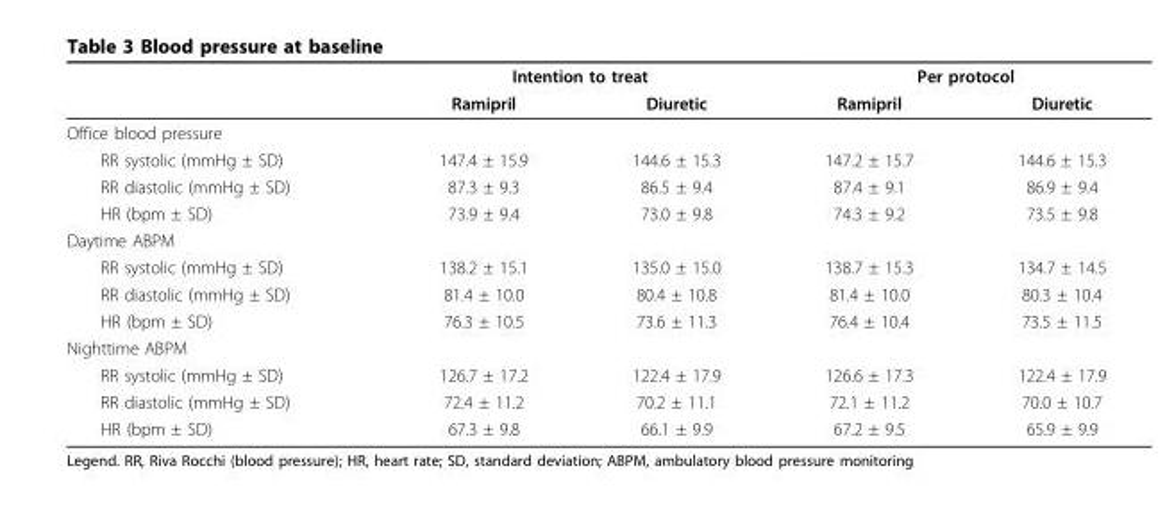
<table><thead><tr><td rowspan="2"></td><td colspan="2">Intention to treat</td><td colspan="2">Per protocol</td></tr><tr><td>Ramipril</td><td>Diuretic</td><td>Ramipril</td><td>Diuretic</td></tr></thead><tbody><tr><td colspan="5">Office blood pressure</td></tr><tr><td>RR systolic (mmHg ± SD)</td><td>147.4 ± 15.9</td><td>144.6 ± 15.3</td><td>147.2 ± 15.7</td><td>144.6 ± 15.3</td></tr><tr><td>RR diastolic (mmHg ± SD)</td><td>87.3 ± 9.3</td><td>86.5 ± 9.4</td><td>87.4 ± 9.1</td><td>86.9 ± 9.4</td></tr><tr><td>HR (bpm ± SD)</td><td>73.9 ± 9.4</td><td>73.0 ± 9.8</td><td>74.3 ± 9.2</td><td>73.5 ± 9.8</td></tr><tr><td colspan="5">Daytime ABPM</td></tr><tr><td>RR systolic (mmHg ± SD)</td><td>138.2 ± 15.1</td><td>135.0 ± 15.0</td><td>138.7 ± 15.3</td><td>134.7 ± 14.5</td></tr><tr><td>RR diastolic (mmHg ± SD)</td><td>81.4 ± 10.0</td><td>80.4 ± 10.8</td><td>81.4 ± 10.0</td><td>80.3 ± 10.4</td></tr><tr><td>HR (bpm ± SD)</td><td>76.3 ± 10.5</td><td>73.6 ± 11.3</td><td>76.4 ± 10.4</td><td>73.5 ± 11.5</td></tr><tr><td colspan="5">Nighttime ABPM</td></tr><tr><td>RR systolic (mmHg ± SD)</td><td>126.7 ± 17.2</td><td>122.4 ± 17.9</td><td>126.6 ± 17.3</td><td>122.4 ± 17.9</td></tr><tr><td>RR diastolic (mmHg ± SD)</td><td>72.4 ± 11.2</td><td>70.2 ± 11.1</td><td>72.1 ± 11.2</td><td>70.0 ± 10.7</td></tr><tr><td>HR (bpm ± SD)</td><td>67.3 ± 9.8</td><td>66.1 ± 9.9</td><td>67.2 ± 9.5</td><td>65.9 ± 9.9</td></tr></tbody></table>